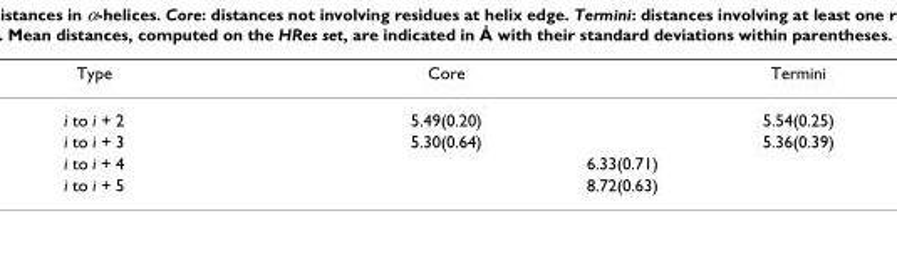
<table><thead><tr><td>Type</td><td>Core</td><td>Termini</td></tr></thead><tbody><tr><td>i to i + 2</td><td>5.49(0.20)</td><td>5.54(0.25)</td></tr><tr><td>i to i + 3</td><td>5.30(0.64)</td><td>5.36(0.39)</td></tr><tr><td>i to i + 4</td><td colspan="2">6.33(0.71)</td></tr><tr><td>i to i + 5</td><td colspan="2">8.72(0.63)</td></tr></tbody></table>